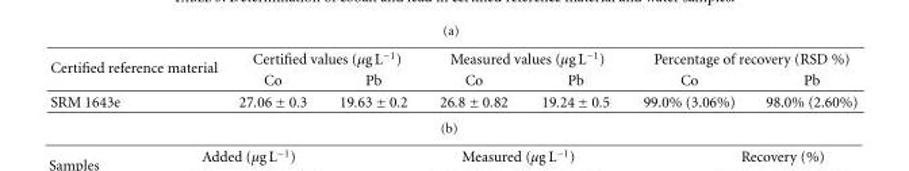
<table><thead><tr><td rowspan="2">Certified reference material</td><td colspan="2">Certified values (µg L<sup>−1</sup>)</td><td colspan="2">Measured values (µg L<sup>−1</sup>)</td><td colspan="2">Percentage of recovery (RSD %)</td></tr><tr><td>Co</td><td>Pb</td><td>Co</td><td>Pb</td><td>Co</td><td>Pb</td></tr></thead><tbody><tr><td>SRM 1643e</td><td>27.06 ± 0.3</td><td>19.63 ± 0.2</td><td>26.8 ± 0.82</td><td>19.24 ± 0.5</td><td>99.0% (3.06%)</td><td>98.0% (2.60%)</td></tr></tbody></table>